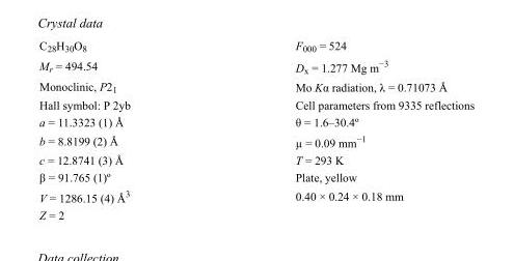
<table><tbody><tr><td>C<sub>28</sub>H<sub>30</sub>O<sub>8</sub></td><td>F000 = 524</td></tr><tr><td>M<sub>r</sub> = 494.54</td><td>D<sub>x</sub> = 1.277 Mg m<sup>−3</sup></td></tr><tr><td>Monoclinic, P2<sub>1</sub></td><td>Mo Kα radiation, λ = 0.71073 Å</td></tr><tr><td>Hall symbol: P 2yb</td><td>Cell parameters from 9335 reflections</td></tr><tr><td>a = 11.3323 (1) Å</td><td>θ = 1.6–30.4º</td></tr><tr><td>b = 8.8199 (2) Å</td><td>µ = 0.09 mm<sup>−1</sup></td></tr><tr><td>c = 12.8741 (3) Å</td><td>T = 293 K</td></tr><tr><td>β = 91.765 (1)º</td><td>Plate, yellow</td></tr><tr><td>V = 1286.15 (4) Å<sup>3</sup></td><td>0.40 × 0.24 × 0.18 mm</td></tr><tr><td>Z = 2</td><td></td></tr></tbody></table>